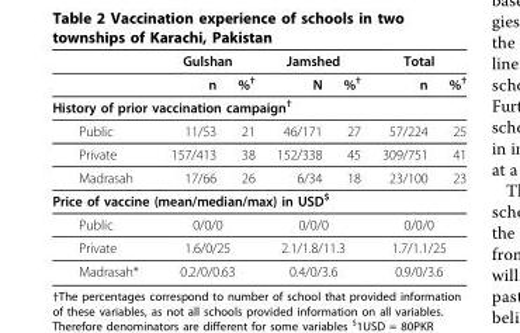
<table><thead><tr><td rowspan="2"></td><td colspan="2">Gulshan</td><td colspan="2">Jamshed</td><td colspan="2">Total</td></tr><tr><td>n</td><td>%<sup>†</sup></td><td>N</td><td>%<sup>†</sup></td><td>n</td><td>%<sup>†</sup></td></tr></thead><tbody><tr><td colspan="7">History of prior vaccination campaign<sup>†</sup></td></tr><tr><td>Public</td><td>11/53</td><td>21</td><td>46/171</td><td>27</td><td>57/224</td><td>25</td></tr><tr><td>Private</td><td>157/413</td><td>38</td><td>152/338</td><td>45</td><td>309/751</td><td>41</td></tr><tr><td>Madrasah</td><td>17/66</td><td>26</td><td>6/34</td><td>18</td><td>23/100</td><td>23</td></tr><tr><td colspan="7">Price of vaccine (mean/median/max) in USD<sup>$</sup></td></tr><tr><td>Public</td><td colspan="2">0/0/0</td><td colspan="2">0/0/0</td><td colspan="2">0/0/0</td></tr><tr><td>Private</td><td colspan="2">1.6/0/25</td><td colspan="2">2.1/1.8/11.3</td><td colspan="2">1.7/1.1/25</td></tr><tr><td>Madrasah*</td><td colspan="2">0.2/0/0.63</td><td colspan="2">0.4/0/3.6</td><td colspan="2">0.9/0/3.6</td></tr></tbody></table>